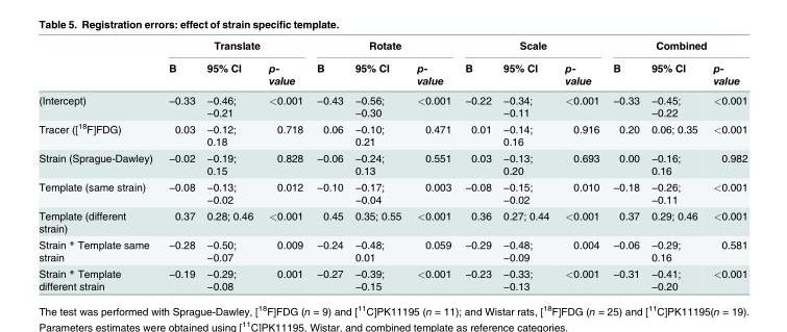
<table><thead><tr><td rowspan="2"></td><td colspan="3">Translate</td><td colspan="3">Rotate</td><td colspan="3">Scale</td><td colspan="3">Combined</td></tr><tr><td>B</td><td>95% CI</td><td>p- value</td><td>B</td><td>95% CI</td><td>p- value</td><td>B</td><td>95% CI</td><td>p- value</td><td>B</td><td>95% CI</td><td>p- value</td></tr></thead><tbody><tr><td>(Intercept)</td><td>−0.33</td><td>−0.46; −0.21</td><td>&lt;0.001</td><td>−0.43</td><td>−0.56; −0.30</td><td>&lt;0.001</td><td>−0.22</td><td>−0.34; −0.11</td><td>&lt;0.001</td><td>−0.33</td><td>−0.45; −0.22</td><td>&lt;0.001</td></tr><tr><td>Tracer ([<sup>18</sup>F]FDG)</td><td>0.03</td><td>−0.12; 0.18</td><td>0.718</td><td>0.06</td><td>−0.10; 0.21</td><td>0.471</td><td>0.01</td><td>−0.14; 0.16</td><td>0.916</td><td>0.20</td><td>0.06; 0.35</td><td>&lt;0.001</td></tr><tr><td>Strain (Sprague-Dawley)</td><td>−0.02</td><td>−0.19; 0.15</td><td>0.828</td><td>−0.06</td><td>−0.24; 0.13</td><td>0.551</td><td>0.03</td><td>−0.13; 0.20</td><td>0.693</td><td>0.00</td><td>−0.16; 0.16</td><td>0.982</td></tr><tr><td>Template (same strain)</td><td>−0.08</td><td>−0.13; −0.02</td><td>0.012</td><td>−0.10</td><td>−0.17; −0.04</td><td>0.003</td><td>−0.08</td><td>−0.15; −0.02</td><td>0.010</td><td>−0.18</td><td>−0.26; −0.11</td><td>&lt;0.001</td></tr><tr><td>Template (different strain)</td><td>0.37</td><td>0.28; 0.46</td><td>&lt;0.001</td><td>0.45</td><td>0.35; 0.55</td><td>&lt;0.001</td><td>0.36</td><td>0.27; 0.44</td><td>&lt;0.001</td><td>0.37</td><td>0.29; 0.46</td><td>&lt;0.001</td></tr><tr><td>Strain * Template same strain</td><td>−0.28</td><td>−0.50; −0.07</td><td>0.009</td><td>−0.24</td><td>−0.48; 0.01</td><td>0.059</td><td>−0.29</td><td>−0.48; −0.09</td><td>0.004</td><td>−0.06</td><td>−0.29; 0.16</td><td>0.581</td></tr><tr><td>Strain * Template different strain</td><td>−0.19</td><td>−0.29; −0.08</td><td>0.001</td><td>−0.27</td><td>−0.39; −0.15</td><td>&lt;0.001</td><td>−0.23</td><td>−0.33; −0.13</td><td>&lt;0.001</td><td>−0.31</td><td>−0.41; −0.20</td><td>&lt;0.001</td></tr></tbody></table>